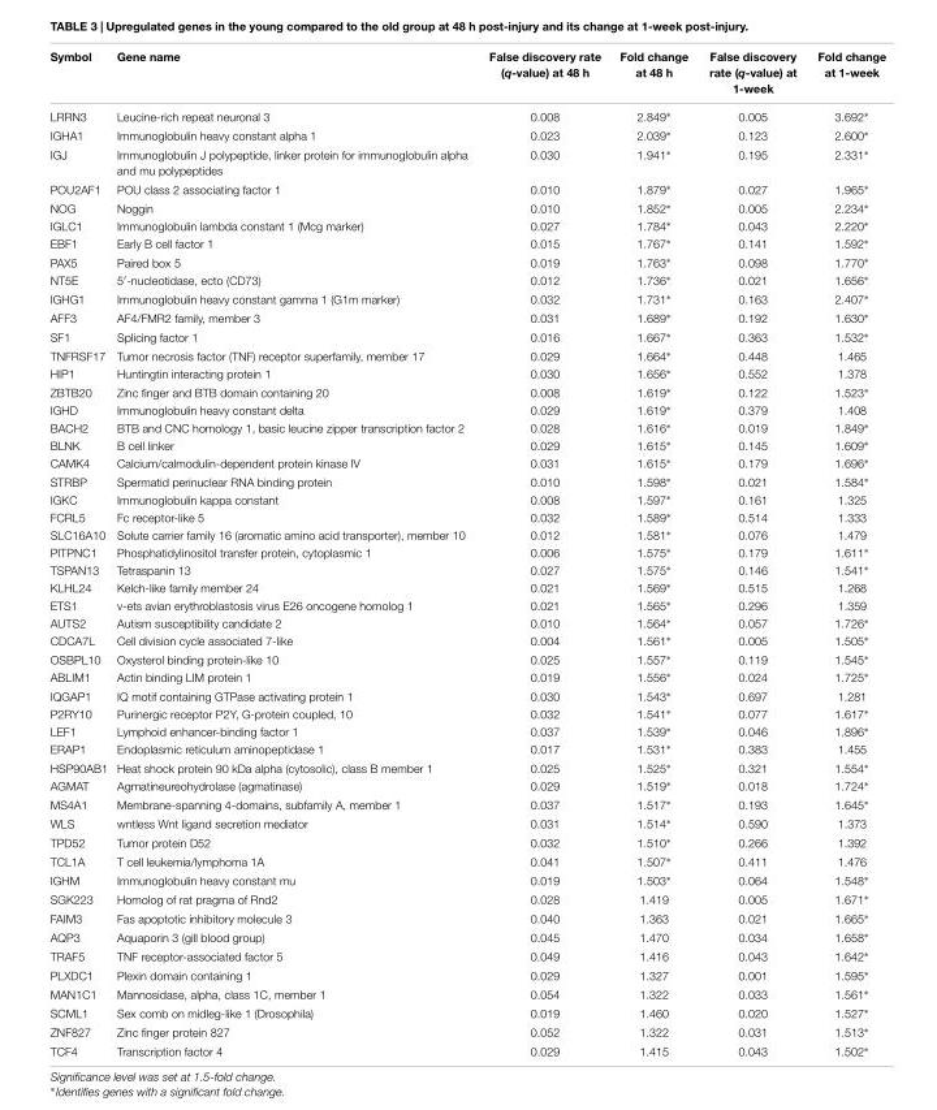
<table><thead><tr><td>Symbol</td><td>Gene name</td><td>False discovery rate (q-value) at 48 h</td><td>Fold change at 48 h</td><td>False discovery rate (q-value) at 1-week</td><td>Fold change at 1-week</td></tr></thead><tbody><tr><td>LRRN3</td><td>Leucine-rich repeat neuronal 3</td><td>0.008</td><td>2.849∗</td><td>0.005</td><td>3.692∗</td></tr><tr><td>IGHA1</td><td>Immunoglobulin heavy constant alpha 1</td><td>0.023</td><td>2.039∗</td><td>0.123</td><td>2.600∗</td></tr><tr><td>IGJ</td><td>Immunoglobulin J polypeptide, linker protein for immunoglobulin alpha and mu polypeptides</td><td>0.030</td><td>1.941∗</td><td>0.195</td><td>2.331∗</td></tr><tr><td>POU2AF1</td><td>POU class 2 associating factor 1</td><td>0.010</td><td>1.879∗</td><td>0.027</td><td>1.965∗</td></tr><tr><td>NOG</td><td>Noggin</td><td>0.010</td><td>1.852∗</td><td>0.005</td><td>2.234∗</td></tr><tr><td>IGLC1</td><td>Immunoglobulin lambda constant 1 (Mcg marker)</td><td>0.027</td><td>1.784∗</td><td>0.043</td><td>2.220∗</td></tr><tr><td>EBF1</td><td>Early B cell factor 1</td><td>0.015</td><td>1.767∗</td><td>0.141</td><td>1.592∗</td></tr><tr><td>PAX5</td><td>Paired box 5</td><td>0.019</td><td>1.763∗</td><td>0.098</td><td>1.770∗</td></tr><tr><td>NT5E</td><td>5′-nucleotidase, ecto (CD73)</td><td>0.012</td><td>1.736∗</td><td>0.021</td><td>1.656∗</td></tr><tr><td>IGHG1</td><td>Immunoglobulin heavy constant gamma 1 (G1m marker)</td><td>0.032</td><td>1.731∗</td><td>0.163</td><td>2.407∗</td></tr><tr><td>AFF3</td><td>AF4/FMR2 family, member 3</td><td>0.031</td><td>1.689∗</td><td>0.192</td><td>1.630∗</td></tr><tr><td>SF1</td><td>Splicing factor 1</td><td>0.016</td><td>1.667∗</td><td>0.363</td><td>1.532∗</td></tr><tr><td>TNFRSF17</td><td>Tumor necrosis factor (TNF) receptor superfamily, member 17</td><td>0.029</td><td>1.664∗</td><td>0.448</td><td>1.465</td></tr><tr><td>HIP1</td><td>Huntingtin interacting protein 1</td><td>0.030</td><td>1.656∗</td><td>0.552</td><td>1.378</td></tr><tr><td>ZBTB20</td><td>Zinc finger and BTB domain containing 20</td><td>0.008</td><td>1.619∗</td><td>0.122</td><td>1.523∗</td></tr><tr><td>IGHD</td><td>Immunoglobulin heavy constant delta</td><td>0.029</td><td>1.619∗</td><td>0.379</td><td>1.408</td></tr><tr><td>BACH2</td><td>BTB and CNC homology 1, basic leucine zipper transcription factor 2</td><td>0.028</td><td>1.616∗</td><td>0.019</td><td>1.849∗</td></tr><tr><td>BLNK</td><td>B cell linker</td><td>0.029</td><td>1.615∗</td><td>0.145</td><td>1.609∗</td></tr><tr><td>CAMK4</td><td>Calcium/calmodulin-dependent protein kinase IV</td><td>0.031</td><td>1.615∗</td><td>0.179</td><td>1.696∗</td></tr><tr><td>STRBP</td><td>Spermatid perinuclear RNA binding protein</td><td>0.010</td><td>1.598∗</td><td>0.021</td><td>1.584∗</td></tr><tr><td>IGKC</td><td>Immunoglobulin kappa constant</td><td>0.008</td><td>1.597∗</td><td>0.161</td><td>1.325</td></tr><tr><td>FCRL5</td><td>Fc receptor-like 5</td><td>0.032</td><td>1.589∗</td><td>0.514</td><td>1.333</td></tr><tr><td>SLC16A10</td><td>Solute carrier family 16 (aromatic amino acid transporter), member 10</td><td>0.012</td><td>1.581∗</td><td>0.076</td><td>1.479</td></tr><tr><td>PITPNC1</td><td>Phosphatidylinositol transfer protein, cytoplasmic 1</td><td>0.006</td><td>1.575∗</td><td>0.179</td><td>1.611∗</td></tr><tr><td>TSPAN13</td><td>Tetraspanin 13</td><td>0.027</td><td>1.575∗</td><td>0.146</td><td>1.541∗</td></tr><tr><td>KLHL24</td><td>Kelch-like family member 24</td><td>0.021</td><td>1.569∗</td><td>0.515</td><td>1.268</td></tr><tr><td>ETS1</td><td>v-ets avian erythroblastosis virus E26 oncogene homolog 1</td><td>0.021</td><td>1.565∗</td><td>0.296</td><td>1.359</td></tr><tr><td>AUTS2</td><td>Autism susceptibility candidate 2</td><td>0.010</td><td>1.564∗</td><td>0.057</td><td>1.726∗</td></tr><tr><td>CDCA7L</td><td>Cell division cycle associated 7-like</td><td>0.004</td><td>1.561∗</td><td>0.005</td><td>1.505∗</td></tr><tr><td>OSBPL10</td><td>Oxysterol binding protein-like 10</td><td>0.025</td><td>1.557∗</td><td>0.119</td><td>1.545∗</td></tr><tr><td>ABLIM1</td><td>Actin binding LIM protein 1</td><td>0.019</td><td>1.556∗</td><td>0.024</td><td>1.725∗</td></tr><tr><td>IQGAP1</td><td>IQ motif containing GTPase activating protein 1</td><td>0.030</td><td>1.543∗</td><td>0.697</td><td>1.281</td></tr><tr><td>P2RY10</td><td>Purinergic receptor P2Y, G-protein coupled, 10</td><td>0.032</td><td>1.541∗</td><td>0.077</td><td>1.617∗</td></tr><tr><td>LEF1</td><td>Lymphoid enhancer-binding factor 1</td><td>0.037</td><td>1.539∗</td><td>0.046</td><td>1.896∗</td></tr><tr><td>ERAP1</td><td>Endoplasmic reticulum aminopeptidase 1</td><td>0.017</td><td>1.531∗</td><td>0.383</td><td>1.455</td></tr><tr><td>HSP90AB1</td><td>Heat shock protein 90 kDa alpha (cytosolic), class B member 1</td><td>0.025</td><td>1.525∗</td><td>0.321</td><td>1.554∗</td></tr><tr><td>AGMAT</td><td>Agmatineureohydrolase (agmatinase)</td><td>0.029</td><td>1.519∗</td><td>0.018</td><td>1.724∗</td></tr><tr><td>MS4A1</td><td>Membrane-spanning 4-domains, subfamily A, member 1</td><td>0.037</td><td>1.517∗</td><td>0.193</td><td>1.645∗</td></tr><tr><td>WLS</td><td>wntless Wnt ligand secretion mediator</td><td>0.031</td><td>1.514∗</td><td>0.590</td><td>1.373</td></tr><tr><td>TPD52</td><td>Tumor protein D52</td><td>0.032</td><td>1.510∗</td><td>0.266</td><td>1.392</td></tr><tr><td>TCL1A</td><td>T cell leukemia/lymphoma 1A</td><td>0.041</td><td>1.507∗</td><td>0.411</td><td>1.476</td></tr><tr><td>IGHM</td><td>Immunoglobulin heavy constant mu</td><td>0.019</td><td>1.503∗</td><td>0.064</td><td>1.548∗</td></tr><tr><td>SGK223</td><td>Homolog of rat pragma of Rnd2</td><td>0.028</td><td>1.419</td><td>0.005</td><td>1.671∗</td></tr><tr><td>FAIM3</td><td>Fas apoptotic inhibitory molecule 3</td><td>0.040</td><td>1.363</td><td>0.021</td><td>1.665∗</td></tr><tr><td>AQP3</td><td>Aquaporin 3 (gill blood group)</td><td>0.045</td><td>1.470</td><td>0.034</td><td>1.658∗</td></tr><tr><td>TRAF5</td><td>TNF receptor-associated factor 5</td><td>0.049</td><td>1.416</td><td>0.043</td><td>1.642∗</td></tr><tr><td>PLXDC1</td><td>Plexin domain containing 1</td><td>0.029</td><td>1.327</td><td>0.001</td><td>1.595∗</td></tr><tr><td>MAN1C1</td><td>Mannosidase, alpha, class 1C, member 1</td><td>0.054</td><td>1.322</td><td>0.033</td><td>1.561∗</td></tr><tr><td>SCML1</td><td>Sex comb on midleg-like 1 (Drosophila)</td><td>0.019</td><td>1.460</td><td>0.020</td><td>1.527∗</td></tr><tr><td>ZNF827</td><td>Zinc finger protein 827</td><td>0.052</td><td>1.322</td><td>0.031</td><td>1.513∗</td></tr><tr><td>TCF4</td><td>Transcription factor 4</td><td>0.029</td><td>1.415</td><td>0.043</td><td>1.502∗</td></tr></tbody></table>